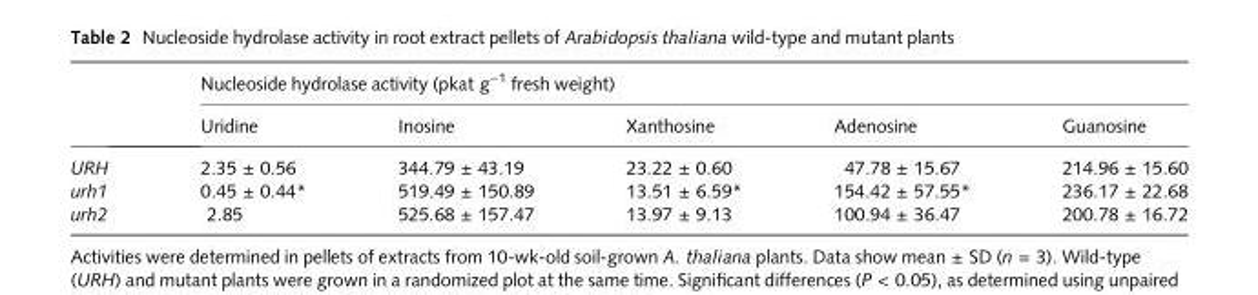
<table><thead><tr><td rowspan="2"></td><td colspan="5">Nucleoside hydrolase activity (pkat g<sup>−1</sup> fresh weight)</td></tr><tr><td>Uridine</td><td>Inosine</td><td>Xanthosine</td><td>Adenosine</td><td>Guanosine</td></tr></thead><tbody><tr><td>URH</td><td>2.35 ± 0.56</td><td>344.79 ± 43.19</td><td>23.22 ± 0.60</td><td>47.78 ± 15.67</td><td>214.96 ± 15.60</td></tr><tr><td>urh1</td><td>0.45 ± 0.44*</td><td>519.49 ± 150.89</td><td>13.51 ± 6.59*</td><td>154.42 ± 57.55*</td><td>236.17 ± 22.68</td></tr><tr><td>urh2</td><td>2.85</td><td>525.68 ± 157.47</td><td>13.97 ± 9.13</td><td>100.94 ± 36.47</td><td>200.78 ± 16.72</td></tr></tbody></table>